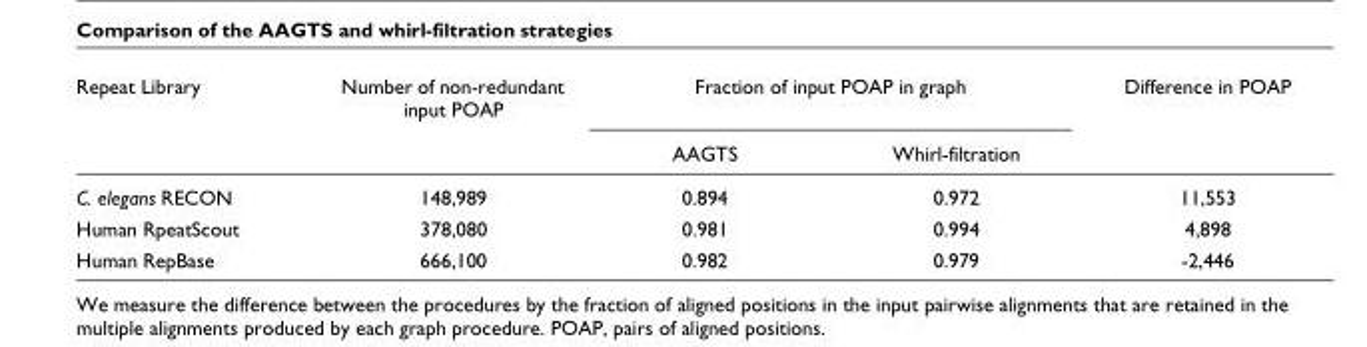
<table><thead><tr><td rowspan="2">Repeat Library</td><td rowspan="2">Number of non-redundant input POAP</td><td colspan="2">Fraction of input POAP in graph</td><td rowspan="2">Difference in POAP</td></tr><tr><td>AAGTS</td><td>Whirl-filtration</td></tr></thead><tbody><tr><td>C. elegans RECON</td><td>148,989</td><td>0.894</td><td>0.972</td><td>11,553</td></tr><tr><td>Human RpeatScout</td><td>378,080</td><td>0.981</td><td>0.994</td><td>4,898</td></tr><tr><td>Human RepBase</td><td>666,100</td><td>0.982</td><td>0.979</td><td>-2,446</td></tr></tbody></table>